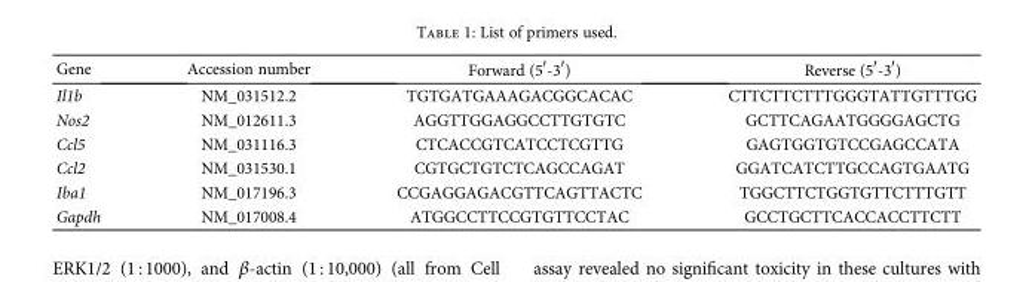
<table><thead><tr><td>Gene</td><td>Accession number</td><td>Forward (5′-3′)</td><td>Reverse (5′-3′)</td></tr></thead><tbody><tr><td>Il1b</td><td>NM_031512.2</td><td>TGTGATGAAAGACGGCACAC</td><td>CTTCTTCTTTGGGTATTGTTTGG</td></tr><tr><td>Nos2</td><td>NM_012611.3</td><td>AGGTTGGAGGCCTTGTGTC</td><td>GCTTCAGAATGGGGAGCTG</td></tr><tr><td>Ccl5</td><td>NM_031116.3</td><td>CTCACCGTCATCCTCGTTG</td><td>GAGTGGTGTCCGAGCCATA</td></tr><tr><td>Ccl2</td><td>NM_031530.1</td><td>CGTGCTGTCTCAGCCAGAT</td><td>GGATCATCTTGCCAGTGAATG</td></tr><tr><td>Iba1</td><td>NM_017196.3</td><td>CCGAGGAGACGTTCAGTTACTC</td><td>TGGCTTCTGGTGTTCTTTGTT</td></tr><tr><td>Gapdh</td><td>NM_017008.4</td><td>ATGGCCTTCCGTGTTCCTAC</td><td>GCCTGCTTCACCACCTTCTT</td></tr></tbody></table>